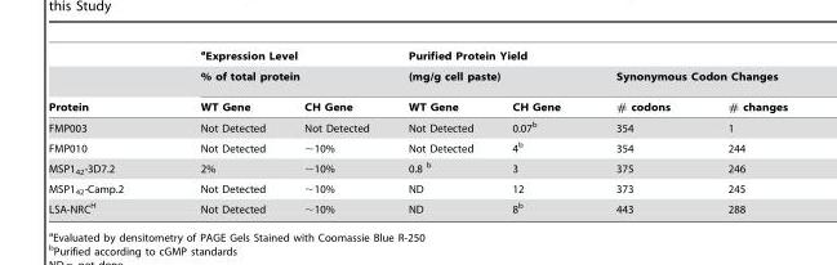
<table><thead><tr><td rowspan="3">Protein</td><td rowspan="2" colspan="2">aExpression Level % of total protein</td><td rowspan="2" colspan="2">Purified Protein Yield (mg/g cell paste)</td><td></td><td></td></tr><tr><td colspan="2">Synonymous Codon Changes</td></tr><tr><td>WT Gene</td><td>CH Gene</td><td>WT Gene</td><td>CH Gene</td><td># codons</td><td># changes</td></tr></thead><tbody><tr><td>FMP003</td><td>Not Detected</td><td>Not Detected</td><td>Not Detected</td><td>0.07<sup>b</sup></td><td>354</td><td>1</td></tr><tr><td>FMP010</td><td>Not Detected</td><td>∼10%</td><td>Not Detected</td><td>4<sup>b</sup></td><td>354</td><td>244</td></tr><tr><td>MSP1<sub>42</sub>-3D7.2</td><td>2%</td><td>∼10%</td><td>0.8 b</td><td>3</td><td>375</td><td>246</td></tr><tr><td>MSP1<sub>42</sub>-Camp.2</td><td>Not Detected</td><td>∼10%</td><td>ND</td><td>12</td><td>373</td><td>245</td></tr><tr><td>LSA-NRC<sup>H</sup></td><td>Not Detected</td><td>∼10%</td><td>ND</td><td>8<sup>b</sup></td><td>443</td><td>288</td></tr></tbody></table>